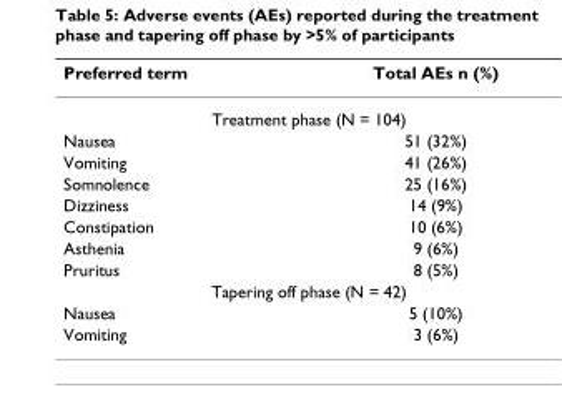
<table><thead><tr><td>Preferred term</td><td>Total AEs n (%)</td></tr></thead><tbody><tr><td colspan="2">Treatment phase (N = 104)</td></tr><tr><td>Nausea</td><td>51 (32%)</td></tr><tr><td>Vomiting</td><td>41 (26%)</td></tr><tr><td>Somnolence</td><td>25 (16%)</td></tr><tr><td>Dizziness</td><td>14 (9%)</td></tr><tr><td>Constipation</td><td>10 (6%)</td></tr><tr><td>Asthenia</td><td>9 (6%)</td></tr><tr><td>Pruritus</td><td>8 (5%)</td></tr><tr><td colspan="2">Tapering off phase (N = 42)</td></tr><tr><td>Nausea</td><td>5 (10%)</td></tr><tr><td>Vomiting</td><td>3 (6%)</td></tr></tbody></table>